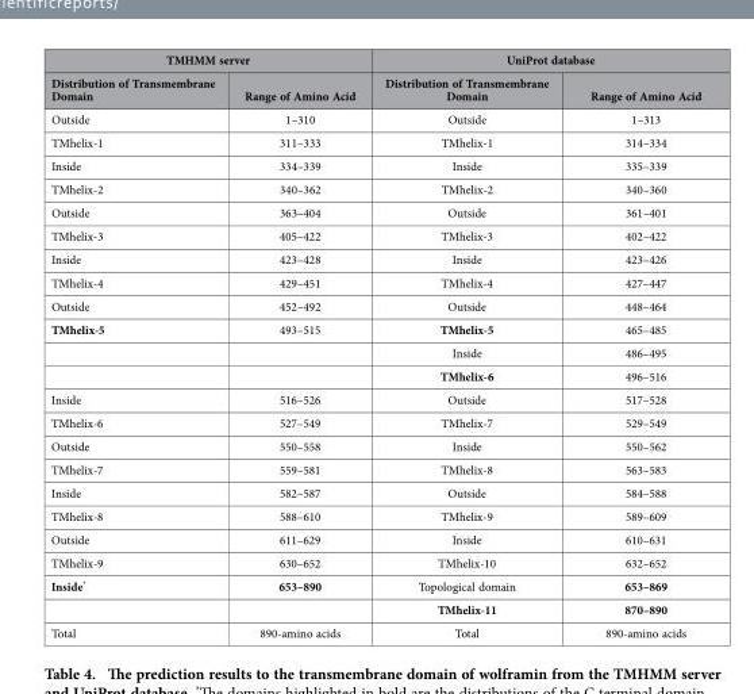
<table><thead><tr><td colspan="2">TMHMM server</td><td colspan="2">UniProt database</td></tr><tr><td>Distribution of Transmembrane Domain</td><td>Range of Amino Acid</td><td>Distribution of Transmembrane Domain</td><td>Range of Amino Acid</td></tr></thead><tbody><tr><td>Outside</td><td>1–310</td><td>Outside</td><td>1–313</td></tr><tr><td>TMhelix-1</td><td>311–333</td><td>TMhelix-1</td><td>314–334</td></tr><tr><td>Inside</td><td>334–339</td><td>Inside</td><td>335–339</td></tr><tr><td>TMhelix-2</td><td>340–362</td><td>TMhelix-2</td><td>340–360</td></tr><tr><td>Outside</td><td>363–404</td><td>Outside</td><td>361–401</td></tr><tr><td>TMhelix-3</td><td>405–422</td><td>TMhelix-3</td><td>402–422</td></tr><tr><td>Inside</td><td>423–428</td><td>Inside</td><td>423–426</td></tr><tr><td>TMhelix-4</td><td>429–451</td><td>TMhelix-4</td><td>427–447</td></tr><tr><td>Outside</td><td>452–492</td><td>Outside</td><td>448–464</td></tr><tr><td rowspan="3">TMhelix-5</td><td>493–515</td><td>TMhelix-5</td><td>465–485</td></tr><tr><td></td><td>Inside</td><td>486–495</td></tr><tr><td></td><td>TMhelix-6</td><td>496–516</td></tr><tr><td>Inside</td><td>516–526</td><td>Outside</td><td>517–528</td></tr><tr><td>TMhelix-6</td><td>527–549</td><td>TMhelix-7</td><td>529–549</td></tr><tr><td>Outside</td><td>550–558</td><td>Inside</td><td>550–562</td></tr><tr><td>TMhelix-7</td><td>559–581</td><td>TMhelix-8</td><td>563–583</td></tr><tr><td>Inside</td><td>582–587</td><td>Outside</td><td>584–588</td></tr><tr><td>TMhelix-8</td><td>588–610</td><td>TMhelix-9</td><td>589–609</td></tr><tr><td>Outside</td><td>611–629</td><td>Inside</td><td>610–631</td></tr><tr><td>TMhelix-9</td><td>630–652</td><td>TMhelix-10</td><td>632–652</td></tr><tr><td rowspan="2">Inside*</td><td>653–890</td><td>Topological domain</td><td>653–869</td></tr><tr><td></td><td>TMhelix-11</td><td>870–890</td></tr><tr><td>Total</td><td>890-amino acids</td><td>Total</td><td>890-amino acids</td></tr></tbody></table>